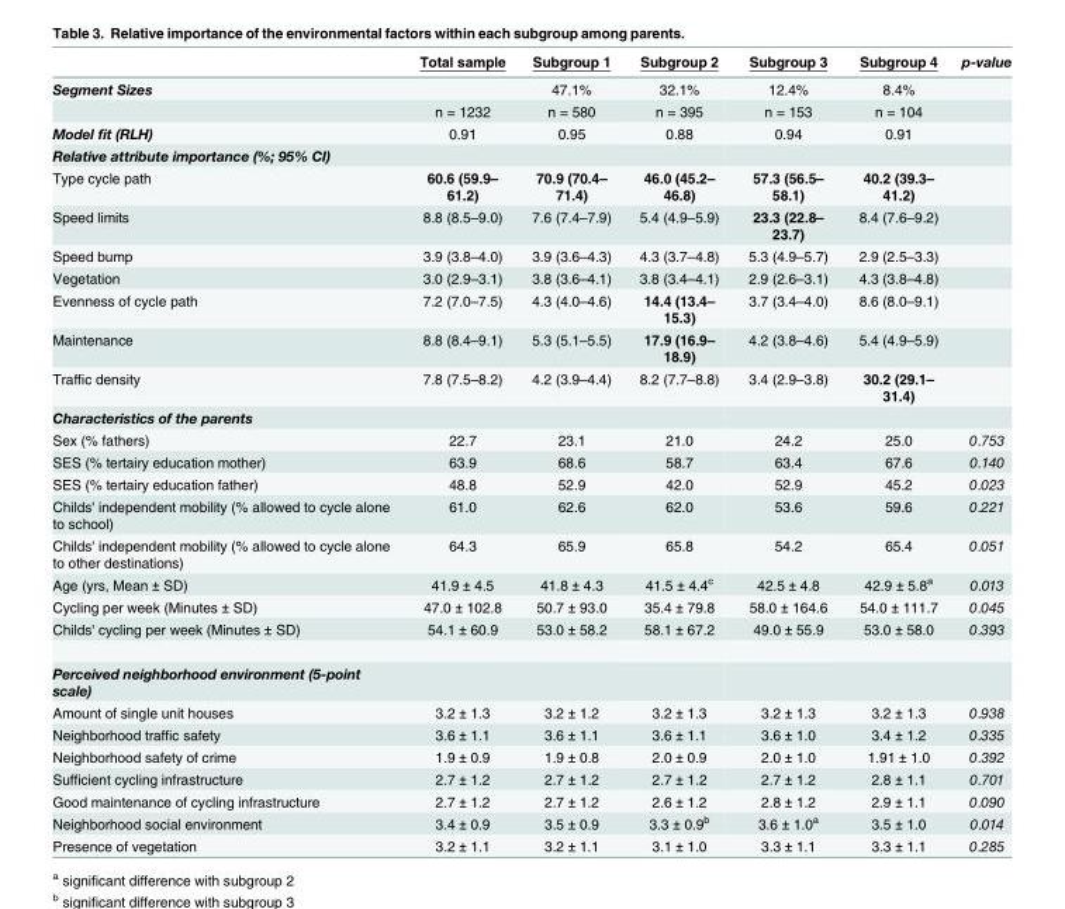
<table><thead><tr><td></td><td>Total sample</td><td>Subgroup 1</td><td>Subgroup 2</td><td>Subgroup 3</td><td>Subgroup 4</td><td>p-value</td></tr></thead><tbody><tr><td rowspan="2">Segment Sizes</td><td></td><td>47.1%</td><td>32.1%</td><td>12.4%</td><td>8.4%</td><td></td></tr><tr><td>n = 1232</td><td>n = 580</td><td>n = 395</td><td>n = 153</td><td>n = 104</td><td></td></tr><tr><td>Model fit (RLH)</td><td>0.91</td><td>0.95</td><td>0.88</td><td>0.94</td><td>0.91</td><td></td></tr><tr><td colspan="7">Relative attribute importance (%; 95% CI)</td></tr><tr><td>Type cycle path</td><td>60.6 (59.9– 61.2)</td><td>70.9 (70.4– 71.4)</td><td>46.0 (45.2– 46.8)</td><td>57.3 (56.5– 58.1)</td><td>40.2 (39.3– 41.2)</td><td></td></tr><tr><td>Speed limits</td><td>8.8 (8.5–9.0)</td><td>7.6 (7.4–7.9)</td><td>5.4 (4.9–5.9)</td><td>23.3 (22.8– 23.7)</td><td>8.4 (7.6–9.2)</td><td></td></tr><tr><td>Speed bump</td><td>3.9 (3.8–4.0)</td><td>3.9 (3.6–4.3)</td><td>4.3 (3.7–4.8)</td><td>5.3 (4.9–5.7)</td><td>2.9 (2.5–3.3)</td><td></td></tr><tr><td>Vegetation</td><td>3.0 (2.9–3.1)</td><td>3.8 (3.6–4.1)</td><td>3.8 (3.4–4.1)</td><td>2.9 (2.6–3.1)</td><td>4.3 (3.8–4.8)</td><td></td></tr><tr><td>Evenness of cycle path</td><td>7.2 (7.0–7.5)</td><td>4.3 (4.0–4.6)</td><td>14.4 (13.4– 15.3)</td><td>3.7 (3.4–4.0)</td><td>8.6 (8.0–9.1)</td><td></td></tr><tr><td>Maintenance</td><td>8.8 (8.4–9.1)</td><td>5.3 (5.1–5.5)</td><td>17.9 (16.9– 18.9)</td><td>4.2 (3.8–4.6)</td><td>5.4 (4.9–5.9)</td><td></td></tr><tr><td>Traffic density</td><td>7.8 (7.5–8.2)</td><td>4.2 (3.9–4.4)</td><td>8.2 (7.7–8.8)</td><td>3.4 (2.9–3.8)</td><td>30.2 (29.1– 31.4)</td><td></td></tr><tr><td colspan="7">Characteristics of the parents</td></tr><tr><td>Sex (% fathers)</td><td>22.7</td><td>23.1</td><td>21.0</td><td>24.2</td><td>25.0</td><td>0.753</td></tr><tr><td>SES (% tertairy education mother)</td><td>63.9</td><td>68.6</td><td>58.7</td><td>63.4</td><td>67.6</td><td>0.140</td></tr><tr><td>SES (% tertairy education father)</td><td>48.8</td><td>52.9</td><td>42.0</td><td>52.9</td><td>45.2</td><td>0.023</td></tr><tr><td>Childs&#x27; independent mobility (% allowed to cycle alone to school)</td><td>61.0</td><td>62.6</td><td>62.0</td><td>53.6</td><td>59.6</td><td>0.221</td></tr><tr><td>Childs&#x27; independent mobility (% allowed to cycle alone to other destinations)</td><td>64.3</td><td>65.9</td><td>65.8</td><td>54.2</td><td>65.4</td><td>0.051</td></tr><tr><td>Age (yrs, Mean ± SD)</td><td>41.9 ± 4.5</td><td>41.8 ± 4.3</td><td>41.5 ± 4.4<sup>c</sup></td><td>42.5 ± 4.8</td><td>42.9 ± 5.8<sup>a</sup></td><td>0.013</td></tr><tr><td>Cycling per week (Minutes ± SD)</td><td>47.0 ± 102.8</td><td>50.7 ± 93.0</td><td>35.4 ± 79.8</td><td>58.0 ± 164.6</td><td>54.0 ± 111.7</td><td>0.045</td></tr><tr><td>Childs&#x27; cycling per week (Minutes ± SD)</td><td>54.1 ± 60.9</td><td>53.0 ± 58.2</td><td>58.1 ± 67.2</td><td>49.0 ± 55.9</td><td>53.0 ± 58.0</td><td>0.393</td></tr><tr><td colspan="7">Perceived neighborhood environment (5-point scale)</td></tr><tr><td>Amount of single unit houses</td><td>3.2 ± 1.3</td><td>3.2 ± 1.2</td><td>3.2 ± 1.3</td><td>3.2 ± 1.3</td><td>3.2 ± 1.3</td><td>0.938</td></tr><tr><td>Neighborhood traffic safety</td><td>3.6 ± 1.1</td><td>3.6 ± 1.1</td><td>3.6 ± 1.1</td><td>3.6 ± 1.0</td><td>3.4 ± 1.2</td><td>0.335</td></tr><tr><td>Neighborhood safety of crime</td><td>1.9 ± 0.9</td><td>1.9 ± 0.8</td><td>2.0 ± 0.9</td><td>2.0 ± 1.0</td><td>1.91 ± 1.0</td><td>0.392</td></tr><tr><td>Sufficient cycling infrastructure</td><td>2.7 ± 1.2</td><td>2.7 ± 1.2</td><td>2.7 ± 1.2</td><td>2.7 ± 1.2</td><td>2.8 ± 1.1</td><td>0.701</td></tr><tr><td>Good maintenance of cycling infrastructure</td><td>2.7 ± 1.2</td><td>2.7 ± 1.2</td><td>2.6 ± 1.2</td><td>2.8 ± 1.2</td><td>2.9 ± 1.1</td><td>0.090</td></tr><tr><td>Neighborhood social environment</td><td>3.4 ± 0.9</td><td>3.5 ± 0.9</td><td>3.3 ± 0.9<sup>b</sup></td><td>3.6 ± 1.0<sup>a</sup></td><td>3.5 ± 1.0</td><td>0.014</td></tr><tr><td>Presence of vegetation</td><td>3.2 ± 1.1</td><td>3.2 ± 1.1</td><td>3.1 ± 1.0</td><td>3.3 ± 1.1</td><td>3.3 ± 1.1</td><td>0.285</td></tr></tbody></table>